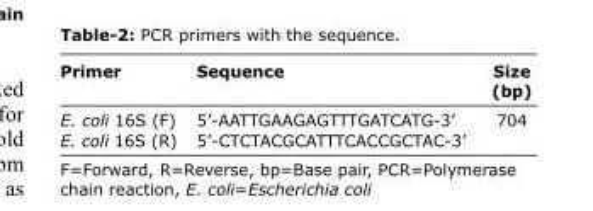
<table><thead><tr><td>Primer</td><td>Sequence</td><td>Size (bp)</td></tr></thead><tbody><tr><td>E. coli 16S (F)</td><td>5’-AATTGAAGAGTTTGATCATG-3’</td><td>704</td></tr><tr><td>E. coli 16S (R)</td><td>5’-CTCTACGCATTTCACCGCTAC-3’</td><td></td></tr></tbody></table>